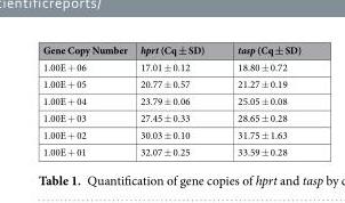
<table><thead><tr><td>Gene Copy Number</td><td>hprt (Cq ± SD)</td><td>tasp (Cq ± SD)</td></tr></thead><tbody><tr><td>1.00E + 06</td><td>17.01 ± 0.12</td><td>18.80 ± 0.72</td></tr><tr><td>1.00E + 05</td><td>20.77 ± 0.57</td><td>21.27 ± 0.19</td></tr><tr><td>1.00E + 04</td><td>23.79 ± 0.06</td><td>25.05 ± 0.08</td></tr><tr><td>1.00E + 03</td><td>27.45 ± 0.33</td><td>28.65 ± 0.28</td></tr><tr><td>1.00E + 02</td><td>30.03 ± 0.10</td><td>31.75 ± 1.63</td></tr><tr><td>1.00E + 01</td><td>32.07 ± 0.25</td><td>33.59 ± 0.28</td></tr></tbody></table>